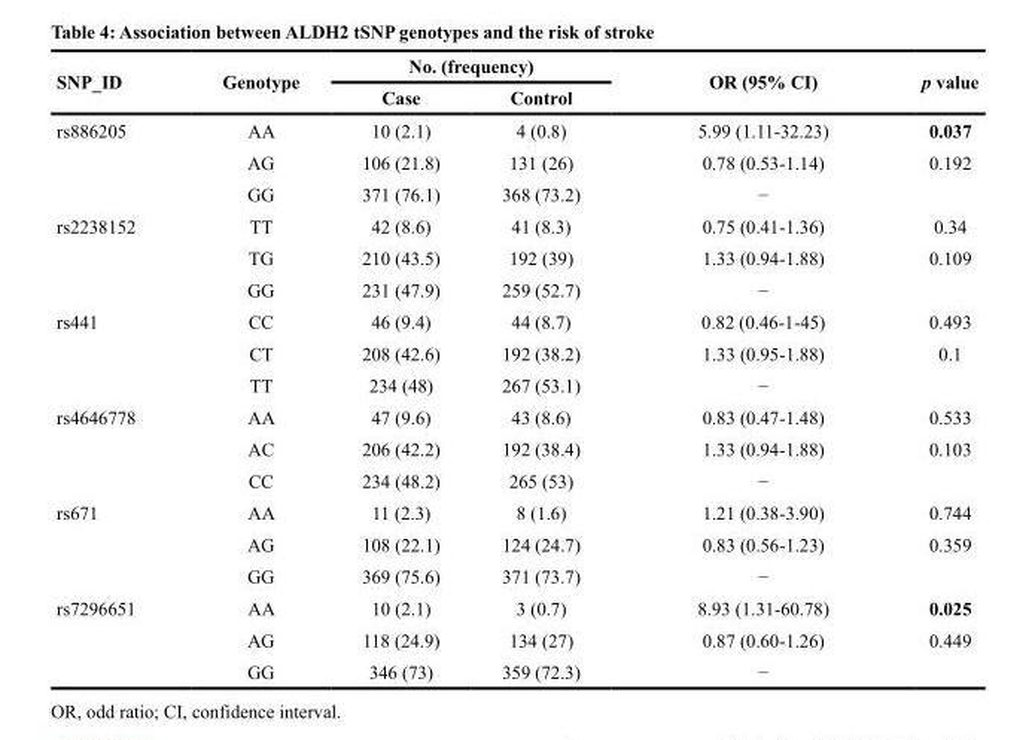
<table><thead><tr><td rowspan="2">SNP_ID</td><td rowspan="2">Genotype</td><td colspan="2">No. (frequency)</td><td rowspan="2">OR (95% CI)</td><td rowspan="2">p value</td></tr><tr><td>Case</td><td>Control</td></tr></thead><tbody><tr><td rowspan="3">rs886205</td><td>AA</td><td>10 (2.1)</td><td>4 (0.8)</td><td>5.99 (1.11-32.23)</td><td>0.037</td></tr><tr><td>AG</td><td>106 (21.8)</td><td>131 (26)</td><td>0.78 (0.53-1.14)</td><td>0.192</td></tr><tr><td>GG</td><td>371 (76.1)</td><td>368 (73.2)</td><td>−</td><td></td></tr><tr><td rowspan="3">rs2238152</td><td>TT</td><td>42 (8.6)</td><td>41 (8.3)</td><td>0.75 (0.41-1.36)</td><td>0.34</td></tr><tr><td>TG</td><td>210 (43.5)</td><td>192 (39)</td><td>1.33 (0.94-1.88)</td><td>0.109</td></tr><tr><td>GG</td><td>231 (47.9)</td><td>259 (52.7)</td><td>−</td><td></td></tr><tr><td rowspan="3">rs441</td><td>CC</td><td>46 (9.4)</td><td>44 (8.7)</td><td>0.82 (0.46-1-45)</td><td>0.493</td></tr><tr><td>CT</td><td>208 (42.6)</td><td>192 (38.2)</td><td>1.33 (0.95-1.88)</td><td>0.1</td></tr><tr><td>TT</td><td>234 (48)</td><td>267 (53.1)</td><td>−</td><td></td></tr><tr><td rowspan="3">rs4646778</td><td>AA</td><td>47 (9.6)</td><td>43 (8.6)</td><td>0.83 (0.47-1.48)</td><td>0.533</td></tr><tr><td>AC</td><td>206 (42.2)</td><td>192 (38.4)</td><td>1.33 (0.94-1.88)</td><td>0.103</td></tr><tr><td>CC</td><td>234 (48.2)</td><td>265 (53)</td><td>−</td><td></td></tr><tr><td rowspan="3">rs671</td><td>AA</td><td>11 (2.3)</td><td>8 (1.6)</td><td>1.21 (0.38-3.90)</td><td>0.744</td></tr><tr><td>AG</td><td>108 (22.1)</td><td>124 (24.7)</td><td>0.83 (0.56-1.23)</td><td>0.359</td></tr><tr><td>GG</td><td>369 (75.6)</td><td>371 (73.7)</td><td>−</td><td></td></tr><tr><td rowspan="3">rs7296651</td><td>AA</td><td>10 (2.1)</td><td>3 (0.7)</td><td>8.93 (1.31-60.78)</td><td>0.025</td></tr><tr><td>AG</td><td>118 (24.9)</td><td>134 (27)</td><td>0.87 (0.60-1.26)</td><td>0.449</td></tr><tr><td>GG</td><td>346 (73)</td><td>359 (72.3)</td><td>−</td><td></td></tr></tbody></table>